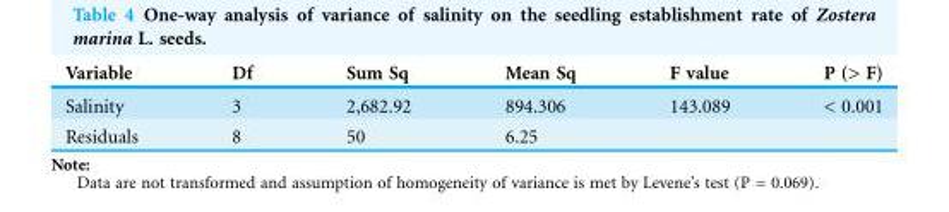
<table><thead><tr><td>Variable</td><td>Df</td><td>Sum Sq</td><td>Mean Sq</td><td>F value</td><td>P (&gt; F)</td></tr></thead><tbody><tr><td>Salinity</td><td>3</td><td>2,682.92</td><td>894.306</td><td>143.089</td><td>&lt; 0.001</td></tr><tr><td>Residuals</td><td>8</td><td>50</td><td>6.25</td><td></td><td></td></tr></tbody></table>